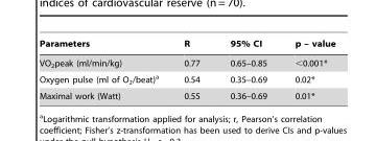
<table><thead><tr><td>Parameters</td><td>R</td><td>95% CI</td><td>p – value</td></tr></thead><tbody><tr><td>VO<sub>2</sub>peak (ml/min/kg)</td><td>0.77</td><td>0.65–0.85</td><td>&lt;0.001*</td></tr><tr><td>Oxygen pulse (ml of O<sub>2</sub>/beat)<sup>a</sup></td><td>0.54</td><td>0.35–0.69</td><td>0.02*</td></tr><tr><td>Maximal work (Watt)</td><td>0.55</td><td>0.36–0.69</td><td>0.01*</td></tr></tbody></table>